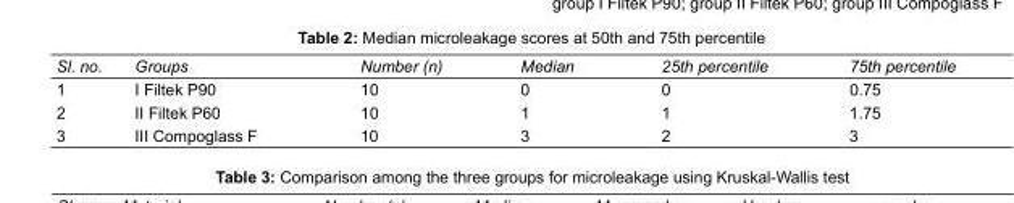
<table><tbody><tr><td>Sl. no.</td><td>Groups</td><td>Number (n)</td><td>Median</td><td>25th percentile</td><td>75th percentile</td></tr><tr><td>1</td><td>I Filtek P90</td><td>10</td><td>0</td><td>0</td><td>0.75</td></tr><tr><td>2</td><td>II Filtek P60</td><td>10</td><td>1</td><td>1</td><td>1.75</td></tr><tr><td>3</td><td>III Compoglass F</td><td>10</td><td>3</td><td>2</td><td>3</td></tr></tbody></table>